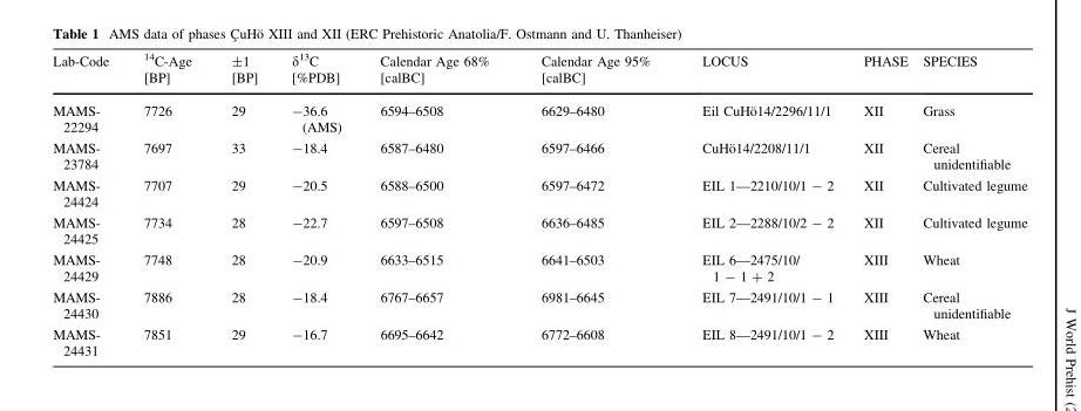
<table><thead><tr><td>Lab-Code</td><td><sup>14</sup>C-Age [BP]</td><td>±1 [BP]</td><td>δ<sup>13</sup>C [%PDB]</td><td>Calendar Age 68% [calBC]</td><td>Calendar Age 95% [calBC]</td><td>LOCUS</td><td>PHASE</td><td>SPECIES</td></tr></thead><tbody><tr><td>MAMS- 22294</td><td>7726</td><td>29</td><td>-36.6 (AMS)</td><td>6594–6508</td><td>6629–6480</td><td>Eil CuHo¨14/2296/11/1</td><td>XII</td><td>Grass</td></tr><tr><td>MAMS- 23784</td><td>7697</td><td>33</td><td>-18.4</td><td>6587–6480</td><td>6597–6466</td><td>CuHo¨14/2208/11/1</td><td>XII</td><td>Cereal unidentifiable</td></tr><tr><td>MAMS- 24424</td><td>7707</td><td>29</td><td>-20.5</td><td>6588–6500</td><td>6597–6472</td><td>EIL 1—2210/10/1 - 2</td><td>XII</td><td>Cultivated legume</td></tr><tr><td>MAMS- 24425</td><td>7734</td><td>28</td><td>-22.7</td><td>6597–6508</td><td>6636–6485</td><td>EIL 2—2288/10/2 - 2</td><td>XII</td><td>Cultivated legume</td></tr><tr><td>MAMS- 24429</td><td>7748</td><td>28</td><td>-20.9</td><td>6633–6515</td><td>6641–6503</td><td>EIL 6—2475/10/ 1 - 1 + 2</td><td>XIII</td><td>Wheat</td></tr><tr><td>MAMS- 24430</td><td>7886</td><td>28</td><td>-18.4</td><td>6767–6657</td><td>6981–6645</td><td>EIL 7—2491/10/1 - 1</td><td>XIII</td><td>Cereal unidentifiable</td></tr><tr><td>MAMS- 24431</td><td>7851</td><td>29</td><td>-16.7</td><td>6695–6642</td><td>6772–6608</td><td>EIL 8—2491/10/1 - 2</td><td>XIII</td><td>Wheat</td></tr></tbody></table>